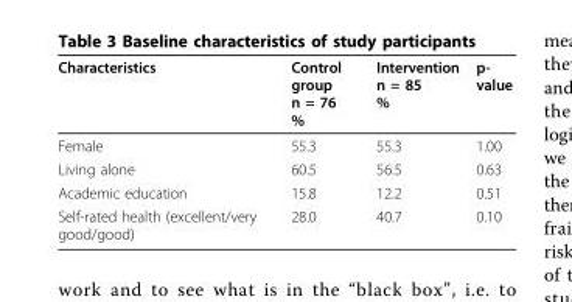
<table><thead><tr><td>Characteristics</td><td>Control group n = 76 %</td><td>Intervention n = 85 %</td><td>p- value</td></tr></thead><tbody><tr><td>Female</td><td>55.3</td><td>55.3</td><td>1.00</td></tr><tr><td>Living alone</td><td>60.5</td><td>56.5</td><td>0.63</td></tr><tr><td>Academic education</td><td>15.8</td><td>12.2</td><td>0.51</td></tr><tr><td>Self-rated health (excellent/very good/good)</td><td>28.0</td><td>40.7</td><td>0.10</td></tr></tbody></table>